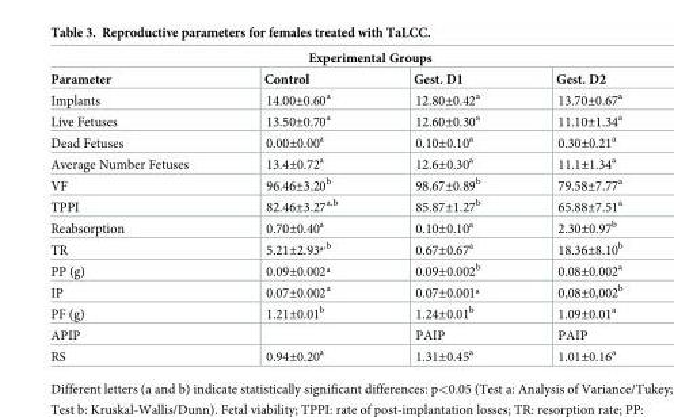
<table><thead><tr><td colspan="4">Experimental Groups</td></tr><tr><td>Parameter</td><td>Control</td><td>Gest. D1</td><td>Gest. D2</td></tr></thead><tbody><tr><td>Implants</td><td>14.00±0.60<sup>a</sup></td><td>12.80±0.42<sup>a</sup></td><td>13.70±0.67<sup>a</sup></td></tr><tr><td>Live Fetuses</td><td>13.50±0.70<sup>a</sup></td><td>12.60±0.30<sup>a</sup></td><td>11.10±1.34<sup>a</sup></td></tr><tr><td>Dead Fetuses</td><td>0.00±0.00<sup>a</sup></td><td>0.10±0.10<sup>a</sup></td><td>0.30±0.21<sup>a</sup></td></tr><tr><td>Average Number Fetuses</td><td>13.4±0.72<sup>a</sup></td><td>12.6±0.30<sup>a</sup></td><td>11.1±1.34<sup>a</sup></td></tr><tr><td>VF</td><td>96.46±3.20<sup>b</sup></td><td>98.67±0.89<sup>b</sup></td><td>79.58±7.77<sup>a</sup></td></tr><tr><td>TPPI</td><td>82.46±3.27<sup>a,b</sup></td><td>85.87±1.27<sup>b</sup></td><td>65.88±7.51<sup>a</sup></td></tr><tr><td>Reabsorption</td><td>0.70±0.40<sup>a</sup></td><td>0.10±0.10<sup>a</sup></td><td>2.30±0.97<sup>b</sup></td></tr><tr><td>TR</td><td>5.21±2.93ª<sup>,b</sup></td><td>0.67±0.67<sup>a</sup></td><td>18.36±8.10<sup>b</sup></td></tr><tr><td>PP (g)</td><td>0.09±0.002ª</td><td>0.09±0.002<sup>b</sup></td><td>0.08±0.002<sup>a</sup></td></tr><tr><td>IP</td><td>0.07±0.002<sup>a</sup></td><td>0.07±0.001ª</td><td>0,08±0,002<sup>b</sup></td></tr><tr><td>PF (g)</td><td>1.21±0.01<sup>b</sup></td><td>1.24±0.01<sup>b</sup></td><td>1.09±0.01<sup>a</sup></td></tr><tr><td>APIP</td><td></td><td>PAIP</td><td>PAIP</td></tr><tr><td>RS</td><td>0.94±0.20<sup>a</sup></td><td>1.31±0.45<sup>a</sup></td><td>1.01±0.16<sup>a</sup></td></tr></tbody></table>